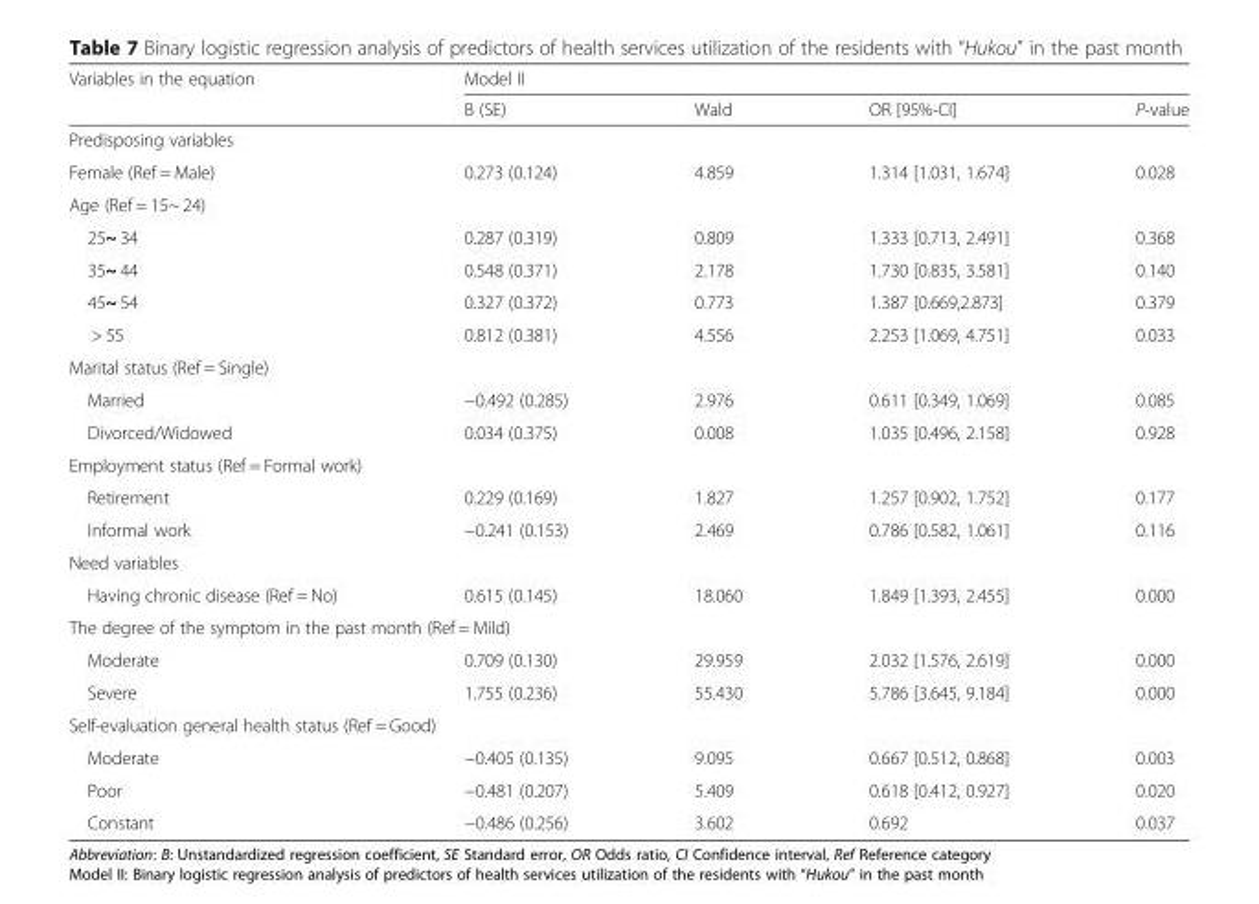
<table><thead><tr><td rowspan="2">Variables in the equation</td><td colspan="4">Model II</td></tr><tr><td>B (SE)</td><td>Wald</td><td>OR [95%-CI]</td><td>P-value</td></tr></thead><tbody><tr><td colspan="5">Predisposing variables</td></tr><tr><td>Female (Ref = Male)</td><td>0.273 (0.124)</td><td>4.859</td><td>1.314 [1.031, 1.674]</td><td>0.028</td></tr><tr><td colspan="5">Age (Ref = 15~ 24)</td></tr><tr><td>25~ 34</td><td>0.287 (0.319)</td><td>0.809</td><td>1.333 [0.713, 2.491]</td><td>0.368</td></tr><tr><td>35~ 44</td><td>0.548 (0.371)</td><td>2.178</td><td>1.730 [0.835, 3.581]</td><td>0.140</td></tr><tr><td>45~ 54</td><td>0.327 (0.372)</td><td>0.773</td><td>1.387 [0.669,2.873]</td><td>0.379</td></tr><tr><td>&gt; 55</td><td>0.812 (0.381)</td><td>4.556</td><td>2.253 [1.069, 4.751]</td><td>0.033</td></tr><tr><td colspan="5">Marital status (Ref = Single)</td></tr><tr><td>Married</td><td>−0.492 (0.285)</td><td>2.976</td><td>0.611 [0.349, 1.069]</td><td>0.085</td></tr><tr><td>Divorced/Widowed</td><td>0.034 (0.375)</td><td>0.008</td><td>1.035 [0.496, 2.158]</td><td>0.928</td></tr><tr><td colspan="5">Employment status (Ref = Formal work)</td></tr><tr><td>Retirement</td><td>0.229 (0.169)</td><td>1.827</td><td>1.257 [0.902, 1.752]</td><td>0.177</td></tr><tr><td>Informal work</td><td>−0.241 (0.153)</td><td>2.469</td><td>0.786 [0.582, 1.061]</td><td>0.116</td></tr><tr><td colspan="5">Need variables</td></tr><tr><td>Having chronic disease (Ref = No)</td><td>0.615 (0.145)</td><td>18.060</td><td>1.849 [1.393, 2.455]</td><td>0.000</td></tr><tr><td colspan="5">The degree of the symptom in the past month (Ref = Mild)</td></tr><tr><td>Moderate</td><td>0.709 (0.130)</td><td>29.959</td><td>2.032 [1.576, 2.619]</td><td>0.000</td></tr><tr><td>Severe</td><td>1.755 (0.236)</td><td>55.430</td><td>5.786 [3.645, 9.184]</td><td>0.000</td></tr><tr><td colspan="5">Self-evaluation general health status (Ref = Good)</td></tr><tr><td>Moderate</td><td>−0.405 (0.135)</td><td>9.095</td><td>0.667 [0.512, 0.868]</td><td>0.003</td></tr><tr><td>Poor</td><td>−0.481 (0.207)</td><td>5.409</td><td>0.618 [0.412, 0.927]</td><td>0.020</td></tr><tr><td>Constant</td><td>−0.486 (0.256)</td><td>3.602</td><td>0.692</td><td>0.037</td></tr></tbody></table>